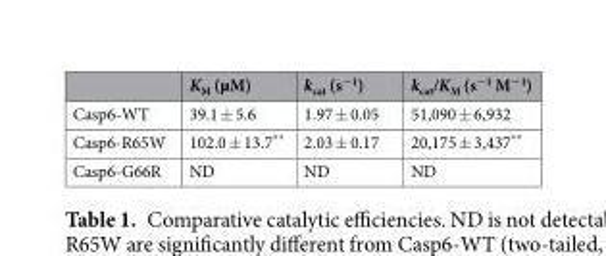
<table><thead><tr><td></td><td>K<sub>M</sub> (µM)</td><td>k<sub>cat</sub> (s<sup>−1</sup>)</td><td>k<sub>cat</sub>/K<sub>M</sub> (s<sup>−1</sup> M<sup>−1</sup>)</td></tr></thead><tbody><tr><td>Casp6-WT</td><td>39.1 ± 5.6</td><td>1.97 ± 0.05</td><td>51,090 ± 6,932</td></tr><tr><td>Casp6-R65W</td><td>102.0 ± 13.7**</td><td>2.03 ± 0.17</td><td>20,175 ± 3,437**</td></tr><tr><td>Casp6-G66R</td><td>ND</td><td>ND</td><td>ND</td></tr></tbody></table>